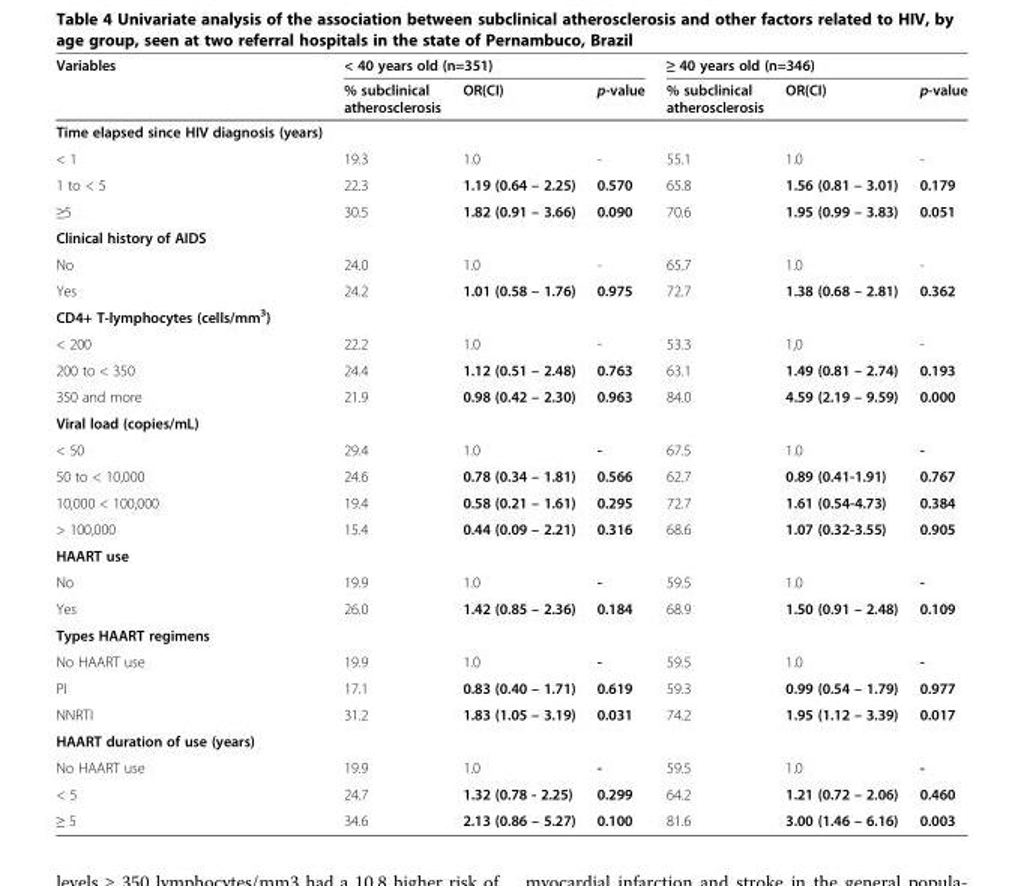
<table><thead><tr><td rowspan="2">Variables</td><td colspan="3">&lt; 40 years old (n=351)</td><td colspan="3">≥ 40 years old (n=346)</td></tr><tr><td>% subclinical atherosclerosis</td><td>OR(CI)</td><td>p-value</td><td>% subclinical atherosclerosis</td><td>OR(CI)</td><td>p-value</td></tr></thead><tbody><tr><td colspan="7">Time elapsed since HIV diagnosis (years)</td></tr><tr><td>&lt; 1</td><td>19.3</td><td>1.0</td><td>-</td><td>55.1</td><td>1.0</td><td>-</td></tr><tr><td>1 to &lt; 5</td><td>22.3</td><td>1.19 (0.64 – 2.25)</td><td>0.570</td><td>65.8</td><td>1.56 (0.81 – 3.01)</td><td>0.179</td></tr><tr><td>≥5</td><td>30.5</td><td>1.82 (0.91 – 3.66)</td><td>0.090</td><td>70.6</td><td>1.95 (0.99 – 3.83)</td><td>0.051</td></tr><tr><td colspan="7">Clinical history of AIDS</td></tr><tr><td>No</td><td>24.0</td><td>1.0</td><td>-</td><td>65.7</td><td>1.0</td><td>-</td></tr><tr><td>Yes</td><td>24.2</td><td>1.01 (0.58 – 1.76)</td><td>0.975</td><td>72.7</td><td>1.38 (0.68 – 2.81)</td><td>0.362</td></tr><tr><td colspan="7">CD4+ T-lymphocytes (cells/mm<sup>3</sup>)</td></tr><tr><td>&lt; 200</td><td>22.2</td><td>1.0</td><td>-</td><td>53.3</td><td>1,0</td><td>-</td></tr><tr><td>200 to &lt; 350</td><td>24.4</td><td>1.12 (0.51 – 2.48)</td><td>0.763</td><td>63.1</td><td>1.49 (0.81 – 2.74)</td><td>0.193</td></tr><tr><td>350 and more</td><td>21.9</td><td>0.98 (0.42 – 2.30)</td><td>0.963</td><td>84.0</td><td>4.59 (2.19 – 9.59)</td><td>0.000</td></tr><tr><td colspan="7">Viral load (copies/mL)</td></tr><tr><td>&lt; 50</td><td>29.4</td><td>1.0</td><td>-</td><td>67.5</td><td>1.0</td><td>-</td></tr><tr><td>50 to &lt; 10,000</td><td>24.6</td><td>0.78 (0.34 – 1.81)</td><td>0.566</td><td>62.7</td><td>0.89 (0.41-1.91)</td><td>0.767</td></tr><tr><td>10,000 &lt; 100,000</td><td>19.4</td><td>0.58 (0.21 – 1.61)</td><td>0.295</td><td>72.7</td><td>1.61 (0.54-4.73)</td><td>0.384</td></tr><tr><td>&gt; 100,000</td><td>15.4</td><td>0.44 (0.09 – 2.21)</td><td>0.316</td><td>68.6</td><td>1.07 (0.32-3.55)</td><td>0.905</td></tr><tr><td colspan="7">HAART use</td></tr><tr><td>No</td><td>19.9</td><td>1.0</td><td>-</td><td>59.5</td><td>1.0</td><td>-</td></tr><tr><td>Yes</td><td>26.0</td><td>1.42 (0.85 – 2.36)</td><td>0.184</td><td>68.9</td><td>1.50 (0.91 – 2.48)</td><td>0.109</td></tr><tr><td colspan="7">Types HAART regimens</td></tr><tr><td>No HAART use</td><td>19.9</td><td>1.0</td><td>-</td><td>59.5</td><td>1.0</td><td>-</td></tr><tr><td>PI</td><td>17.1</td><td>0.83 (0.40 – 1.71)</td><td>0.619</td><td>59.3</td><td>0.99 (0.54 – 1.79)</td><td>0.977</td></tr><tr><td>NNRTI</td><td>31.2</td><td>1.83 (1.05 – 3.19)</td><td>0.031</td><td>74.2</td><td>1.95 (1.12 – 3.39)</td><td>0.017</td></tr><tr><td colspan="7">HAART duration of use (years)</td></tr><tr><td>No HAART use</td><td>19.9</td><td>1.0</td><td>-</td><td>59.5</td><td>1.0</td><td>-</td></tr><tr><td>&lt; 5</td><td>24.7</td><td>1.32 (0.78 - 2.25)</td><td>0.299</td><td>64.2</td><td>1.21 (0.72 – 2.06)</td><td>0.460</td></tr><tr><td>≥ 5</td><td>34.6</td><td>2.13 (0.86 – 5.27)</td><td>0.100</td><td>81.6</td><td>3.00 (1.46 – 6.16)</td><td>0.003</td></tr></tbody></table>